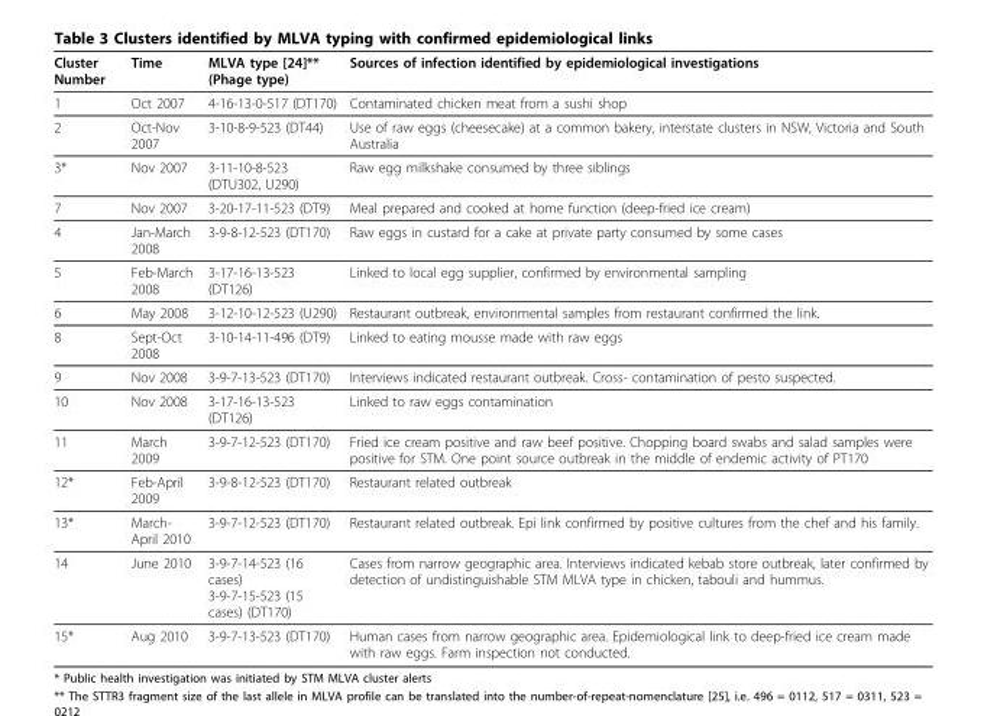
<table><thead><tr><td>Cluster Number</td><td>Time</td><td>MLVA type [24]** (Phage type)</td><td>Sources of infection identified by epidemiological investigations</td></tr></thead><tbody><tr><td>1</td><td>Oct 2007</td><td>4-16-13-0-517 (DT170)</td><td>Contaminated chicken meat from a sushi shop</td></tr><tr><td>2</td><td>Oct-Nov 2007</td><td>3-10-8-9-523 (DT44)</td><td>Use of raw eggs (cheesecake) at a common bakery, interstate clusters in NSW, Victoria and South Australia</td></tr><tr><td>3*</td><td>Nov 2007</td><td>3-11-10-8-523 (DTU302, U290)</td><td>Raw egg milkshake consumed by three siblings</td></tr><tr><td>7</td><td>Nov 2007</td><td>3-20-17-11-523 (DT9)</td><td>Meal prepared and cooked at home function (deep-fried ice cream)</td></tr><tr><td>4</td><td>Jan-March 2008</td><td>3-9-8-12-523 (DT170)</td><td>Raw eggs in custard for a cake at private party consumed by some cases</td></tr><tr><td>5</td><td>Feb-March 2008</td><td>3-17-16-13-523 (DT126)</td><td>Linked to local egg supplier, confirmed by environmental sampling</td></tr><tr><td>6</td><td>May 2008</td><td>3-12-10-12-523 (U290)</td><td>Restaurant outbreak, environmental samples from restaurant confirmed the link.</td></tr><tr><td>8</td><td>Sept-Oct 2008</td><td>3-10-14-11-496 (DT9)</td><td>Linked to eating mousse made with raw eggs</td></tr><tr><td>9</td><td>Nov 2008</td><td>3-9-7-13-523 (DT170)</td><td>Interviews indicated restaurant outbreak. Cross- contamination of pesto suspected.</td></tr><tr><td>10</td><td>Nov 2008</td><td>3-17-16-13-523 (DT126)</td><td>Linked to raw eggs contamination</td></tr><tr><td>11</td><td>March 2009</td><td>3-9-7-12-523 (DT170)</td><td>Fried ice cream positive and raw beef positive. Chopping board swabs and salad samples were positive for STM. One point source outbreak in the middle of endemic activity of PT170</td></tr><tr><td>12*</td><td>Feb-April 2009</td><td>3-9-8-12-523 (DT170)</td><td>Restaurant related outbreak</td></tr><tr><td>13*</td><td>March- April 2010</td><td>3-9-7-12-523 (DT170)</td><td>Restaurant related outbreak. Epi link confirmed by positive cultures from the chef and his family.</td></tr><tr><td>14</td><td>June 2010</td><td>3-9-7-14-523 (16 cases) 3-9-7-15-523 (15 cases) (DT170)</td><td>Cases from narrow geographic area. Interviews indicated kebab store outbreak, later confirmed by detection of undistinguishable STM MLVA type in chicken, tabouli and hummus.</td></tr><tr><td>15*</td><td>Aug 2010</td><td>3-9-7-13-523 (DT170)</td><td>Human cases from narrow geographic area. Epidemiological link to deep-fried ice cream made with raw eggs. Farm inspection not conducted.</td></tr></tbody></table>